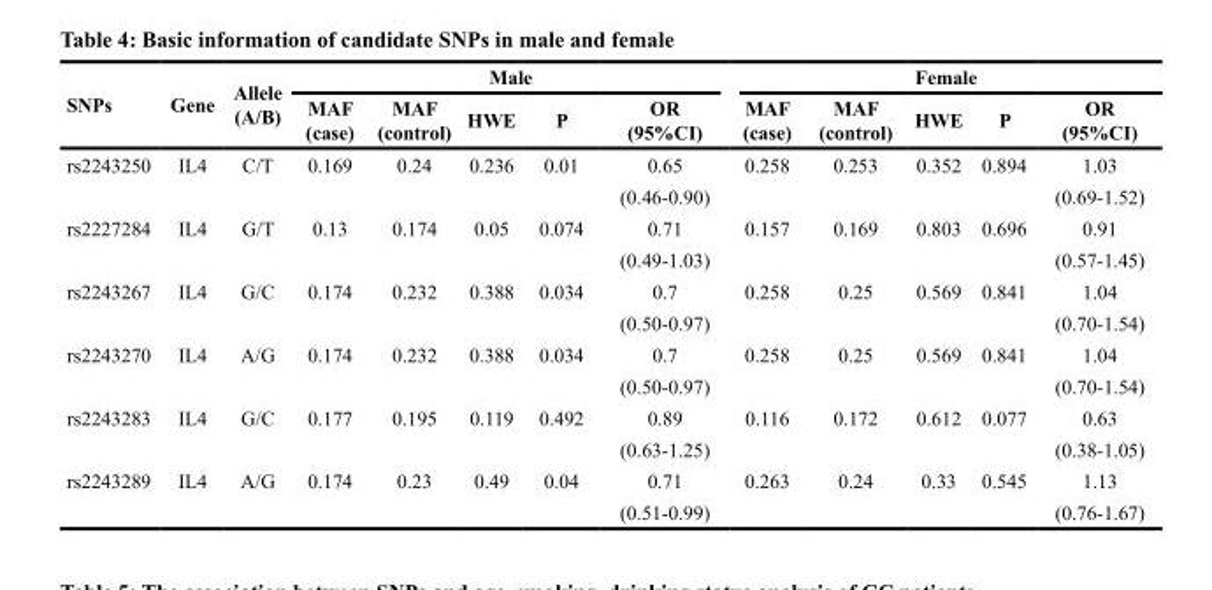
<table><thead><tr><td rowspan="2">SNPs</td><td rowspan="2">Gene</td><td rowspan="2">Allele (A/B)</td><td colspan="5">Male</td><td colspan="5">Female</td></tr><tr><td>MAF (case)</td><td>MAF (control)</td><td>HWE</td><td>P</td><td>OR (95%CI)</td><td>MAF (case)</td><td>MAF (control)</td><td>HWE</td><td>P</td><td>OR (95%CI)</td></tr></thead><tbody><tr><td rowspan="2">rs2243250</td><td>IL4</td><td>C/T</td><td>0.169</td><td>0.24</td><td>0.236</td><td>0.01</td><td>0.65</td><td>0.258</td><td>0.253</td><td>0.352</td><td>0.894</td><td>1.03</td></tr><tr><td></td><td></td><td></td><td></td><td></td><td></td><td>(0.46-0.90)</td><td></td><td></td><td></td><td></td><td>(0.69-1.52)</td></tr><tr><td rowspan="2">rs2227284</td><td>IL4</td><td>G/T</td><td>0.13</td><td>0.174</td><td>0.05</td><td>0.074</td><td>0.71</td><td>0.157</td><td>0.169</td><td>0.803</td><td>0.696</td><td>0.91</td></tr><tr><td></td><td></td><td></td><td></td><td></td><td></td><td>(0.49-1.03)</td><td></td><td></td><td></td><td></td><td>(0.57-1.45)</td></tr><tr><td rowspan="2">rs2243267</td><td>IL4</td><td>G/C</td><td>0.174</td><td>0.232</td><td>0.388</td><td>0.034</td><td>0.7</td><td>0.258</td><td>0.25</td><td>0.569</td><td>0.841</td><td>1.04</td></tr><tr><td></td><td></td><td></td><td></td><td></td><td></td><td>(0.50-0.97)</td><td></td><td></td><td></td><td></td><td>(0.70-1.54)</td></tr><tr><td rowspan="2">rs2243270</td><td>IL4</td><td>A/G</td><td>0.174</td><td>0.232</td><td>0.388</td><td>0.034</td><td>0.7</td><td>0.258</td><td>0.25</td><td>0.569</td><td>0.841</td><td>1.04</td></tr><tr><td></td><td></td><td></td><td></td><td></td><td></td><td>(0.50-0.97)</td><td></td><td></td><td></td><td></td><td>(0.70-1.54)</td></tr><tr><td rowspan="2">rs2243283</td><td>IL4</td><td>G/C</td><td>0.177</td><td>0.195</td><td>0.119</td><td>0.492</td><td>0.89</td><td>0.116</td><td>0.172</td><td>0.612</td><td>0.077</td><td>0.63</td></tr><tr><td></td><td></td><td></td><td></td><td></td><td></td><td>(0.63-1.25)</td><td></td><td></td><td></td><td></td><td>(0.38-1.05)</td></tr><tr><td rowspan="2">rs2243289</td><td>IL4</td><td>A/G</td><td>0.174</td><td>0.23</td><td>0.49</td><td>0.04</td><td>0.71</td><td>0.263</td><td>0.24</td><td>0.33</td><td>0.545</td><td>1.13</td></tr><tr><td></td><td></td><td></td><td></td><td></td><td></td><td>(0.51-0.99)</td><td></td><td></td><td></td><td></td><td>(0.76-1.67)</td></tr></tbody></table>